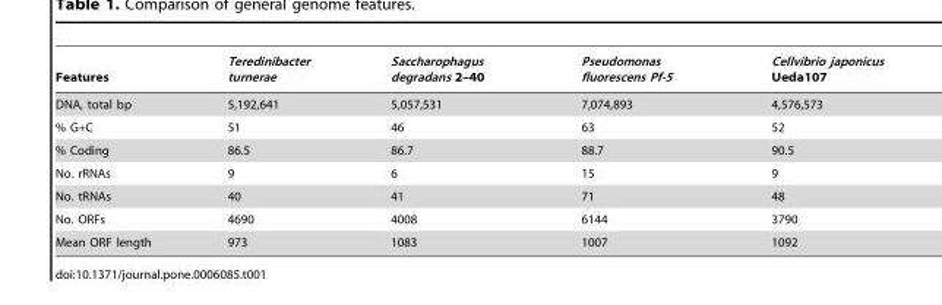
<table><thead><tr><td>Features</td><td>Teredinibacter turnerae</td><td>Saccharophagus degradans 2–40</td><td>Pseudomonas fluorescens Pf-5</td><td>Cellvibrio japonicus Ueda107</td></tr></thead><tbody><tr><td>DNA, total bp</td><td>5,192,641</td><td>5,057,531</td><td>7,074,893</td><td>4,576,573</td></tr><tr><td>% G+C</td><td>51</td><td>46</td><td>63</td><td>52</td></tr><tr><td>% Coding</td><td>86.5</td><td>86.7</td><td>88.7</td><td>90.5</td></tr><tr><td>No. rRNAs</td><td>9</td><td>6</td><td>15</td><td>9</td></tr><tr><td>No. tRNAs</td><td>40</td><td>41</td><td>71</td><td>48</td></tr><tr><td>No. ORFs</td><td>4690</td><td>4008</td><td>6144</td><td>3790</td></tr><tr><td>Mean ORF length</td><td>973</td><td>1083</td><td>1007</td><td>1092</td></tr></tbody></table>